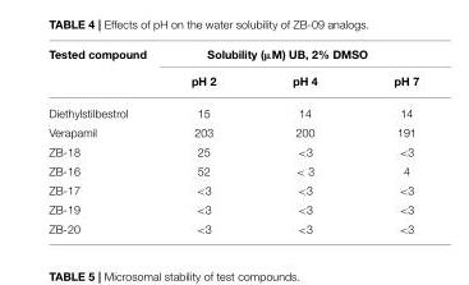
<table><thead><tr><td rowspan="2">Tested compound</td><td colspan="3">Solubility (µM) UB, 2% DMSO</td></tr><tr><td>pH 2</td><td>pH 4</td><td>pH 7</td></tr></thead><tbody><tr><td>Diethylstilbestrol</td><td>15</td><td>14</td><td>14</td></tr><tr><td>Verapamil</td><td>203</td><td>200</td><td>191</td></tr><tr><td>ZB-18</td><td>25</td><td>&lt;3</td><td>&lt;3</td></tr><tr><td>ZB-16</td><td>52</td><td>&lt; 3</td><td>4</td></tr><tr><td>ZB-17</td><td>&lt;3</td><td>&lt;3</td><td>&lt;3</td></tr><tr><td>ZB-19</td><td>&lt;3</td><td>&lt;3</td><td>&lt;3</td></tr><tr><td>ZB-20</td><td>&lt;3</td><td>&lt;3</td><td>&lt;3</td></tr></tbody></table>